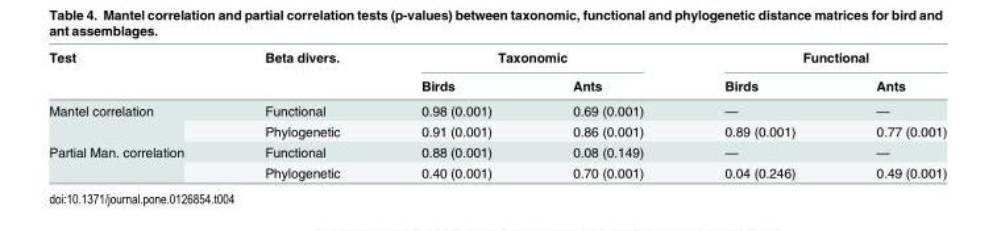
<table><thead><tr><td rowspan="2">Test</td><td rowspan="2">Beta divers.</td><td colspan="2">Taxonomic</td><td colspan="2">Functional</td></tr><tr><td>Birds</td><td>Ants</td><td>Birds</td><td>Ants</td></tr></thead><tbody><tr><td rowspan="2">Mantel correlation</td><td>Functional</td><td>0.98 (0.001)</td><td>0.69 (0.001)</td><td>—</td><td>—</td></tr><tr><td>Phylogenetic</td><td>0.91 (0.001)</td><td>0.86 (0.001)</td><td>0.89 (0.001)</td><td>0.77 (0.001)</td></tr><tr><td rowspan="2">Partial Man. correlation</td><td>Functional</td><td>0.88 (0.001)</td><td>0.08 (0.149)</td><td>—</td><td>—</td></tr><tr><td>Phylogenetic</td><td>0.40 (0.001)</td><td>0.70 (0.001)</td><td>0.04 (0.246)</td><td>0.49 (0.001)</td></tr></tbody></table>